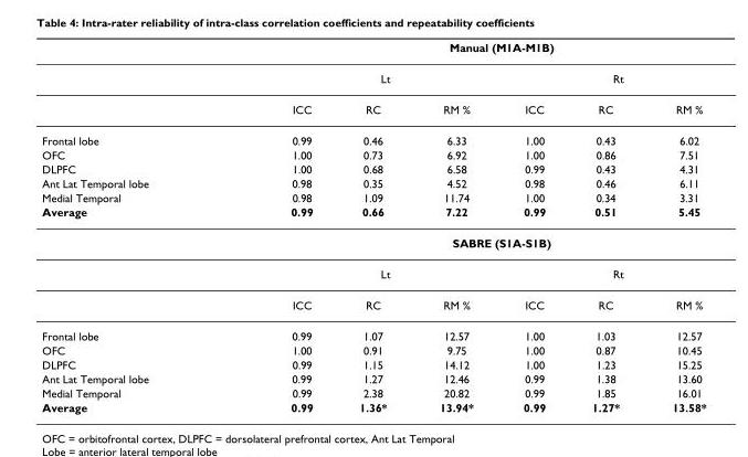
<table><thead><tr><td rowspan="3"></td><td colspan="6">Manual (M1A-M1B)</td></tr><tr><td colspan="3">Lt</td><td colspan="3">Rt</td></tr><tr><td>ICC</td><td>RC</td><td>RM %</td><td>ICC</td><td>RC</td><td>RM %</td></tr></thead><tbody><tr><td>Frontal lobe</td><td>0.99</td><td>0.46</td><td>6.33</td><td>1.00</td><td>0.43</td><td>6.02</td></tr><tr><td>OFC</td><td>1.00</td><td>0.73</td><td>6.92</td><td>1.00</td><td>0.86</td><td>7.51</td></tr><tr><td>DLPFC</td><td>1.00</td><td>0.68</td><td>6.58</td><td>0.99</td><td>0.43</td><td>4.31</td></tr><tr><td>Ant Lat Temporal lobe</td><td>0.98</td><td>0.35</td><td>4.52</td><td>0.98</td><td>0.46</td><td>6.11</td></tr><tr><td>Medial Temporal</td><td>0.98</td><td>1.09</td><td>11.74</td><td>1.00</td><td>0.34</td><td>3.31</td></tr><tr><td rowspan="4">Average</td><td>0.99</td><td>0.66</td><td>7.22</td><td>0.99</td><td>0.51</td><td>5.45</td></tr><tr><td colspan="6">SABRE (S1A-S1B)</td></tr><tr><td colspan="3">Lt</td><td colspan="3">Rt</td></tr><tr><td>ICC</td><td>RC</td><td>RM %</td><td>ICC</td><td>RC</td><td>RM %</td></tr><tr><td>Frontal lobe</td><td>0.99</td><td>1.07</td><td>12.57</td><td>1.00</td><td>1.03</td><td>12.57</td></tr><tr><td>OFC</td><td>1.00</td><td>0.91</td><td>9.75</td><td>1.00</td><td>0.87</td><td>10.45</td></tr><tr><td>DLPFC</td><td>0.99</td><td>1.15</td><td>14.12</td><td>1.00</td><td>1.23</td><td>15.25</td></tr><tr><td>Ant Lat Temporal lobe</td><td>0.99</td><td>1.27</td><td>12.46</td><td>0.99</td><td>1.38</td><td>13.60</td></tr><tr><td>Medial Temporal</td><td>0.99</td><td>2.38</td><td>20.82</td><td>0.99</td><td>1.85</td><td>16.01</td></tr><tr><td>Average</td><td>0.99</td><td>1.36*</td><td>13.94*</td><td>0.99</td><td>1.27*</td><td>13.58*</td></tr></tbody></table>